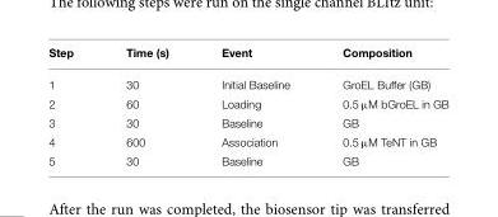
<table><thead><tr><td>Step</td><td>Time (s)</td><td>Event</td><td>Composition</td></tr></thead><tbody><tr><td>1</td><td>30</td><td>Initial Baseline</td><td>GroEL Buffer (GB)</td></tr><tr><td>2</td><td>60</td><td>Loading</td><td>0.5 µM bGroEL in GB</td></tr><tr><td>3</td><td>30</td><td>Baseline</td><td>GB</td></tr><tr><td>4</td><td>600</td><td>Association</td><td>0.5 µM TeNT in GB</td></tr><tr><td>5</td><td>30</td><td>Baseline</td><td>GB</td></tr></tbody></table>